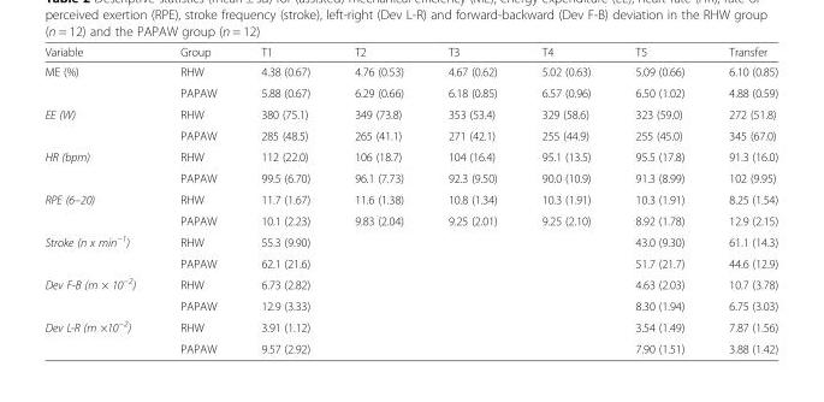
<table><thead><tr><td>Variable</td><td>Group</td><td>T1</td><td>T2</td><td>T3</td><td>T4</td><td>T5</td><td>Transfer</td></tr></thead><tbody><tr><td rowspan="2">ME (%)</td><td>RHW</td><td>4.38 (0.67)</td><td>4.76 (0.53)</td><td>4.67 (0.62)</td><td>5.02 (0.63)</td><td>5.09 (0.66)</td><td>6.10 (0.85)</td></tr><tr><td>PAPAW</td><td>5.88 (0.67)</td><td>6.29 (0.66)</td><td>6.18 (0.85)</td><td>6.57 (0.96)</td><td>6.50 (1.02)</td><td>4.88 (0.59)</td></tr><tr><td rowspan="2">EE (W)</td><td>RHW</td><td>380 (75.1)</td><td>349 (73.8)</td><td>353 (53.4)</td><td>329 (58.6)</td><td>323 (59.0)</td><td>272 (51.8)</td></tr><tr><td>PAPAW</td><td>285 (48.5)</td><td>265 (41.1)</td><td>271 (42.1)</td><td>255 (44.9)</td><td>255 (45.0)</td><td>345 (67.0)</td></tr><tr><td rowspan="2">HR (bpm)</td><td>RHW</td><td>112 (22.0)</td><td>106 (18.7)</td><td>104 (16.4)</td><td>95.1 (13.5)</td><td>95.5 (17.8)</td><td>91.3 (16.0)</td></tr><tr><td>PAPAW</td><td>99.5 (6.70)</td><td>96.1 (7.73)</td><td>92.3 (9.50)</td><td>90.0 (10.9)</td><td>91.3 (8.99)</td><td>102 (9.95)</td></tr><tr><td rowspan="2">RPE (6–20)</td><td>RHW</td><td>11.7 (1.67)</td><td>11.6 (1.38)</td><td>10.8 (1.34)</td><td>10.3 (1.91)</td><td>10.3 (1.91)</td><td>8.25 (1.54)</td></tr><tr><td>PAPAW</td><td>10.1 (2.23)</td><td>9.83 (2.04)</td><td>9.25 (2.01)</td><td>9.25 (2.10)</td><td>8.92 (1.78)</td><td>12.9 (2.15)</td></tr><tr><td rowspan="2">Stroke (n x min<sup>−1</sup>)</td><td>RHW</td><td>55.3 (9.90)</td><td></td><td></td><td></td><td>43.0 (9.30)</td><td>61.1 (14.3)</td></tr><tr><td>PAPAW</td><td>62.1 (21.6)</td><td></td><td></td><td></td><td>51.7 (21.7)</td><td>44.6 (12.9)</td></tr><tr><td rowspan="2">Dev F-B (m × 10<sup>−2</sup>)</td><td>RHW</td><td>6.73 (2.82)</td><td></td><td></td><td></td><td>4.63 (2.03)</td><td>10.7 (3.78)</td></tr><tr><td>PAPAW</td><td>12.9 (3.33)</td><td></td><td></td><td></td><td>8.30 (1.94)</td><td>6.75 (3.03)</td></tr><tr><td rowspan="2">Dev L-R (m ×10<sup>−2</sup>)</td><td>RHW</td><td>3.91 (1.12)</td><td></td><td></td><td></td><td>3.54 (1.49)</td><td>7.87 (1.56)</td></tr><tr><td>PAPAW</td><td>9.57 (2.92)</td><td></td><td></td><td></td><td>7.90 (1.51)</td><td>3.88 (1.42)</td></tr></tbody></table>